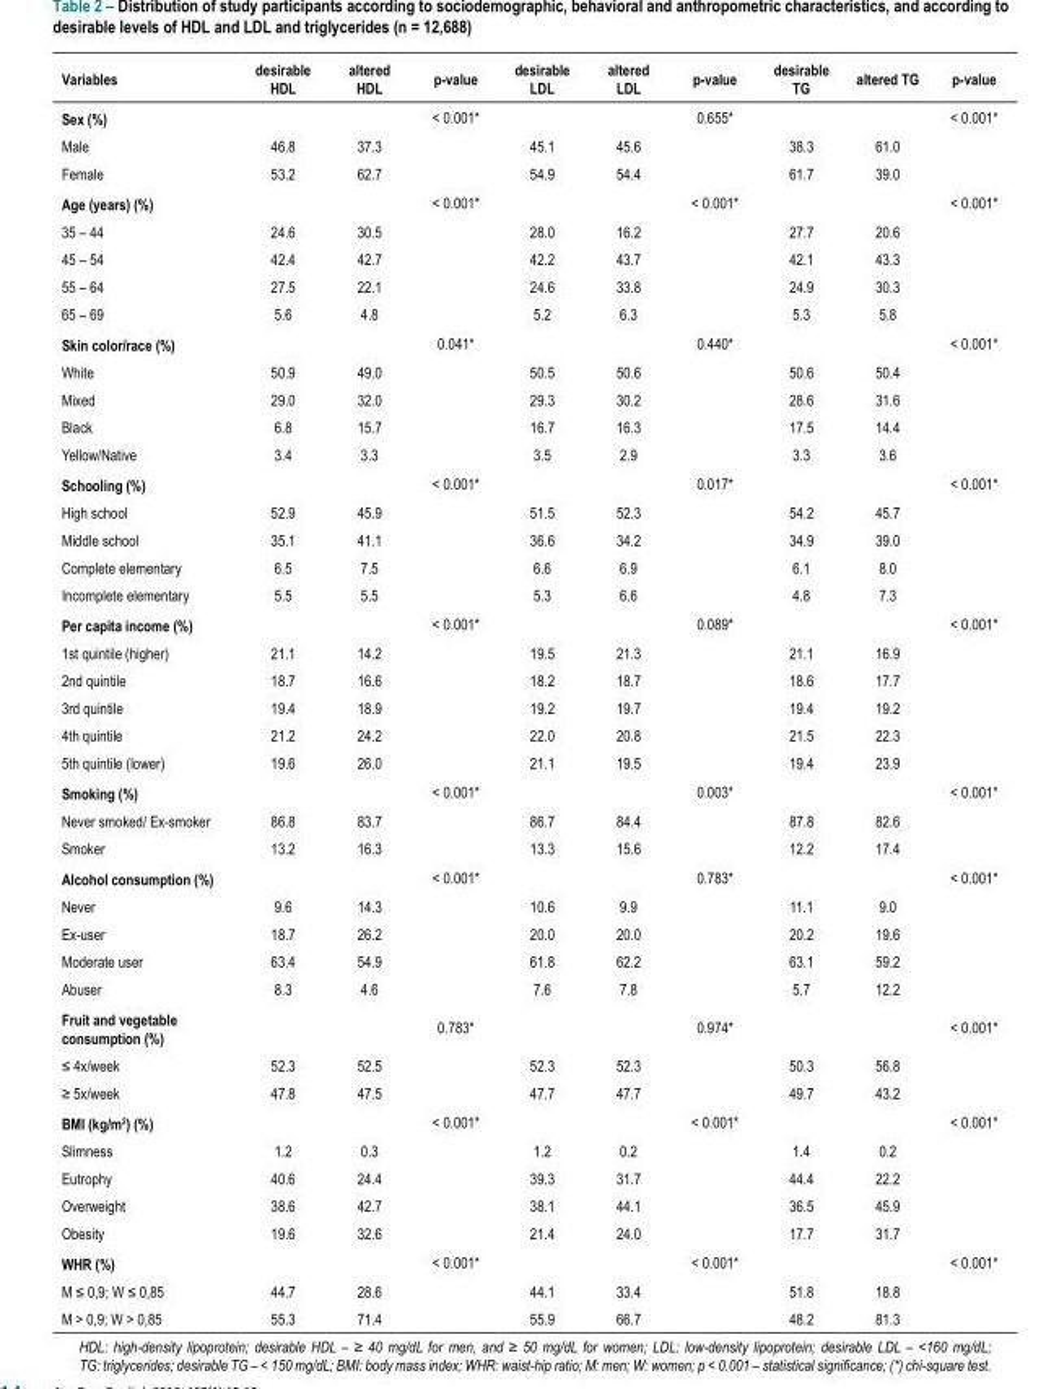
<table><thead><tr><td>Variables</td><td>desirable HDL</td><td>altered HDL</td><td>p-value</td><td>desirable LDL</td><td>altered LDL</td><td>p-value</td><td>desirable TG</td><td>altered TG</td><td>p-value</td></tr></thead><tbody><tr><td>Sex (%)</td><td></td><td></td><td>&lt; 0.001*</td><td></td><td></td><td>0.655*</td><td></td><td></td><td>&lt; 0.001*</td></tr><tr><td>Male</td><td>46.8</td><td>37.3</td><td></td><td>45.1</td><td>45.6</td><td></td><td>38.3</td><td>61.0</td><td></td></tr><tr><td>Female</td><td>53.2</td><td>62.7</td><td></td><td>54.9</td><td>54.4</td><td></td><td>61.7</td><td>39.0</td><td></td></tr><tr><td>Age (years) (%)</td><td></td><td></td><td>&lt; 0.001*</td><td></td><td></td><td>&lt; 0.001*</td><td></td><td></td><td>&lt; 0.001*</td></tr><tr><td>35 – 44</td><td>24.6</td><td>30.5</td><td></td><td>28.0</td><td>16.2</td><td></td><td>27.7</td><td>20.6</td><td></td></tr><tr><td>45 – 54</td><td>42.4</td><td>42.7</td><td></td><td>42.2</td><td>43.7</td><td></td><td>42.1</td><td>43.3</td><td></td></tr><tr><td>55 – 64</td><td>27.5</td><td>22.1</td><td></td><td>24.6</td><td>33.8</td><td></td><td>24.9</td><td>30.3</td><td></td></tr><tr><td>65 – 69</td><td>5.6</td><td>4.8</td><td></td><td>5.2</td><td>6.3</td><td></td><td>5.3</td><td>5.8</td><td></td></tr><tr><td>Skin color/race (%)</td><td></td><td></td><td>0.041*</td><td></td><td></td><td>0.440*</td><td></td><td></td><td>&lt; 0.001*</td></tr><tr><td>White</td><td>50.9</td><td>49.0</td><td></td><td>50.5</td><td>50.6</td><td></td><td>50.6</td><td>50.4</td><td></td></tr><tr><td>Mixed</td><td>29.0</td><td>32.0</td><td></td><td>29.3</td><td>30.2</td><td></td><td>28.6</td><td>31.6</td><td></td></tr><tr><td>Black</td><td>6.8</td><td>15.7</td><td></td><td>16.7</td><td>16.3</td><td></td><td>17.5</td><td>14.4</td><td></td></tr><tr><td>Yellow/Native</td><td>3.4</td><td>3.3</td><td></td><td>3.5</td><td>2.9</td><td></td><td>3.3</td><td>3.6</td><td></td></tr><tr><td>Schooling (%)</td><td></td><td></td><td>&lt; 0.001*</td><td></td><td></td><td>0.017*</td><td></td><td></td><td>&lt; 0.001*</td></tr><tr><td>High school</td><td>52.9</td><td>45.9</td><td></td><td>51.5</td><td>52.3</td><td></td><td>54.2</td><td>45.7</td><td></td></tr><tr><td>Middle school</td><td>35.1</td><td>41.1</td><td></td><td>36.6</td><td>34.2</td><td></td><td>34.9</td><td>39.0</td><td></td></tr><tr><td>Complete elementary</td><td>6.5</td><td>7.5</td><td></td><td>6.6</td><td>6.9</td><td></td><td>6.1</td><td>8.0</td><td></td></tr><tr><td>Incomplete elementary</td><td>5.5</td><td>5.5</td><td></td><td>5.3</td><td>6.6</td><td></td><td>4.8</td><td>7.3</td><td></td></tr><tr><td>Per capita income (%)</td><td></td><td></td><td>&lt; 0.001*</td><td></td><td></td><td>0.089*</td><td></td><td></td><td>&lt; 0.001*</td></tr><tr><td>1st quintile (higher)</td><td>21.1</td><td>14.2</td><td></td><td>19.5</td><td>21.3</td><td></td><td>21.1</td><td>16.9</td><td></td></tr><tr><td>2nd quintile</td><td>18.7</td><td>16.6</td><td></td><td>18.2</td><td>18.7</td><td></td><td>18.6</td><td>17.7</td><td></td></tr><tr><td>3rd quintile</td><td>19.4</td><td>18.9</td><td></td><td>19.2</td><td>19.7</td><td></td><td>19.4</td><td>19.2</td><td></td></tr><tr><td>4th quintile</td><td>21.2</td><td>24.2</td><td></td><td>22.0</td><td>20.8</td><td></td><td>21.5</td><td>22.3</td><td></td></tr><tr><td>5th quintile (lower)</td><td>19.6</td><td>26.0</td><td></td><td>21.1</td><td>19.5</td><td></td><td>19.4</td><td>23.9</td><td></td></tr><tr><td>Smoking (%)</td><td></td><td></td><td>&lt; 0.001*</td><td></td><td></td><td>0.003*</td><td></td><td></td><td>&lt; 0.001*</td></tr><tr><td>Never smoked/ Ex-smoker</td><td>86.8</td><td>83.7</td><td></td><td>86.7</td><td>84.4</td><td></td><td>87.8</td><td>82.6</td><td></td></tr><tr><td>Smoker</td><td>13.2</td><td>16.3</td><td></td><td>13.3</td><td>15.6</td><td></td><td>12.2</td><td>17.4</td><td></td></tr><tr><td>Alcohol consumption (%)</td><td></td><td></td><td>&lt; 0.001*</td><td></td><td></td><td>0.783*</td><td></td><td></td><td>&lt; 0.001*</td></tr><tr><td>Never</td><td>9.6</td><td>14.3</td><td></td><td>10.6</td><td>9.9</td><td></td><td>11.1</td><td>9.0</td><td></td></tr><tr><td>Ex-user</td><td>18.7</td><td>26.2</td><td></td><td>20.0</td><td>20.0</td><td></td><td>20.2</td><td>19.6</td><td></td></tr><tr><td>Moderate user</td><td>63.4</td><td>54.9</td><td></td><td>61.8</td><td>62.2</td><td></td><td>63.1</td><td>59.2</td><td></td></tr><tr><td>Abuser</td><td>8.3</td><td>4.6</td><td></td><td>7.6</td><td>7.8</td><td></td><td>5.7</td><td>12.2</td><td></td></tr><tr><td>Fruit and vegetable consumption (%)</td><td></td><td></td><td>0.783*</td><td></td><td></td><td>0.974*</td><td></td><td></td><td>&lt; 0.001*</td></tr><tr><td>≤ 4x/week</td><td>52.3</td><td>52.5</td><td></td><td>52.3</td><td>52.3</td><td></td><td>50.3</td><td>56.8</td><td></td></tr><tr><td>≥ 5x/week</td><td>47.8</td><td>47.5</td><td></td><td>47.7</td><td>47.7</td><td></td><td>49.7</td><td>43.2</td><td></td></tr><tr><td>BMI (kg/m<sup>2</sup>) (%)</td><td></td><td></td><td>&lt; 0.001*</td><td></td><td></td><td>&lt; 0.001*</td><td></td><td></td><td>&lt; 0.001*</td></tr><tr><td>Slimness</td><td>1.2</td><td>0.3</td><td></td><td>1.2</td><td>0.2</td><td></td><td>1.4</td><td>0.2</td><td></td></tr><tr><td>Eutrophy</td><td>40.6</td><td>24.4</td><td></td><td>39.3</td><td>31.7</td><td></td><td>44.4</td><td>22.2</td><td></td></tr><tr><td>Overweight</td><td>38.6</td><td>42.7</td><td></td><td>38.1</td><td>44.1</td><td></td><td>36.5</td><td>45.9</td><td></td></tr><tr><td>Obesity</td><td>19.6</td><td>32.6</td><td></td><td>21.4</td><td>24.0</td><td></td><td>17.7</td><td>31.7</td><td></td></tr><tr><td>WHR (%)</td><td></td><td></td><td>&lt; 0.001*</td><td></td><td></td><td>&lt; 0.001*</td><td></td><td></td><td>&lt; 0.001*</td></tr><tr><td>M ≤ 0,9; W ≤ 0,85</td><td>44.7</td><td>28.6</td><td></td><td>44.1</td><td>33.4</td><td></td><td>51.8</td><td>18.8</td><td></td></tr><tr><td>M &gt; 0,9; W &gt; 0,85</td><td>55.3</td><td>71.4</td><td></td><td>55.9</td><td>66.7</td><td></td><td>48.2</td><td>81.3</td><td></td></tr></tbody></table>